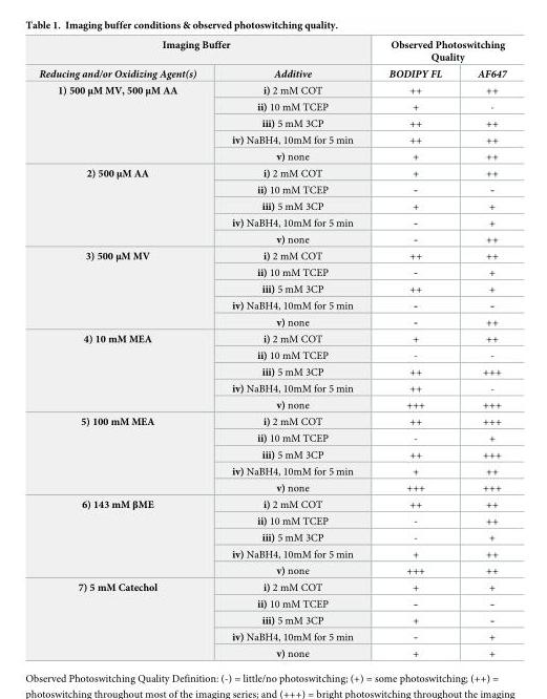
<table><thead><tr><td colspan="2">Imaging Buffer</td><td colspan="2">Observed Photoswitching Quality</td></tr><tr><td>Reducing and/or Oxidizing Agent(s)</td><td>Additive</td><td>BODIPY FL</td><td>AF647</td></tr></thead><tbody><tr><td rowspan="5">1) 500 μM MV, 500 μM AA</td><td>i) 2 mM COT</td><td>++</td><td>++</td></tr><tr><td>ii) 10 mM TCEP</td><td>+</td><td>-</td></tr><tr><td>iii) 5 mM 3CP</td><td>++</td><td>++</td></tr><tr><td>iv) NaBH4, 10mM for 5 min</td><td>++</td><td>++</td></tr><tr><td>v) none</td><td>+</td><td>++</td></tr><tr><td rowspan="5">2) 500 μM AA</td><td>i) 2 mM COT</td><td>+</td><td>++</td></tr><tr><td>ii) 10 mM TCEP</td><td>-</td><td>-</td></tr><tr><td>iii) 5 mM 3CP</td><td>+</td><td>+</td></tr><tr><td>iv) NaBH4, 10mM for 5 min</td><td>-</td><td>+</td></tr><tr><td>v) none</td><td>-</td><td>++</td></tr><tr><td rowspan="5">3) 500 μM MV</td><td>i) 2 mM COT</td><td>++</td><td>++</td></tr><tr><td>ii) 10 mM TCEP</td><td>-</td><td>+</td></tr><tr><td>iii) 5 mM 3CP</td><td>++</td><td>+</td></tr><tr><td>iv) NaBH4, 10mM for 5 min</td><td>-</td><td>-</td></tr><tr><td>v) none</td><td>-</td><td>++</td></tr><tr><td rowspan="5">4) 10 mM MEA</td><td>i) 2 mM COT</td><td>+</td><td>++</td></tr><tr><td>ii) 10 mM TCEP</td><td>-</td><td>-</td></tr><tr><td>iii) 5 mM 3CP</td><td>++</td><td>+++</td></tr><tr><td>iv) NaBH4, 10mM for 5 min</td><td>++</td><td>-</td></tr><tr><td>v) none</td><td>+++</td><td>+++</td></tr><tr><td rowspan="5">5) 100 mM MEA</td><td>i) 2 mM COT</td><td>++</td><td>+++</td></tr><tr><td>ii) 10 mM TCEP</td><td>-</td><td>+</td></tr><tr><td>iii) 5 mM 3CP</td><td>++</td><td>+++</td></tr><tr><td>iv) NaBH4, 10mM for 5 min</td><td>+</td><td>++</td></tr><tr><td>v) none</td><td>+++</td><td>+++</td></tr><tr><td rowspan="5">6) 143 mM βME</td><td>i) 2 mM COT</td><td>++</td><td>++</td></tr><tr><td>ii) 10 mM TCEP</td><td>-</td><td>++</td></tr><tr><td>iii) 5 mM 3CP</td><td>-</td><td>+</td></tr><tr><td>iv) NaBH4, 10mM for 5 min</td><td>+</td><td>++</td></tr><tr><td>v) none</td><td>+++</td><td>++</td></tr><tr><td rowspan="5">7) 5 mM Catechol</td><td>i) 2 mM COT</td><td>+</td><td>+</td></tr><tr><td>ii) 10 mM TCEP</td><td>-</td><td>-</td></tr><tr><td>iii) 5 mM 3CP</td><td>+</td><td>-</td></tr><tr><td>iv) NaBH4, 10mM for 5 min</td><td>-</td><td>+</td></tr><tr><td>v) none</td><td>+</td><td>+</td></tr></tbody></table>